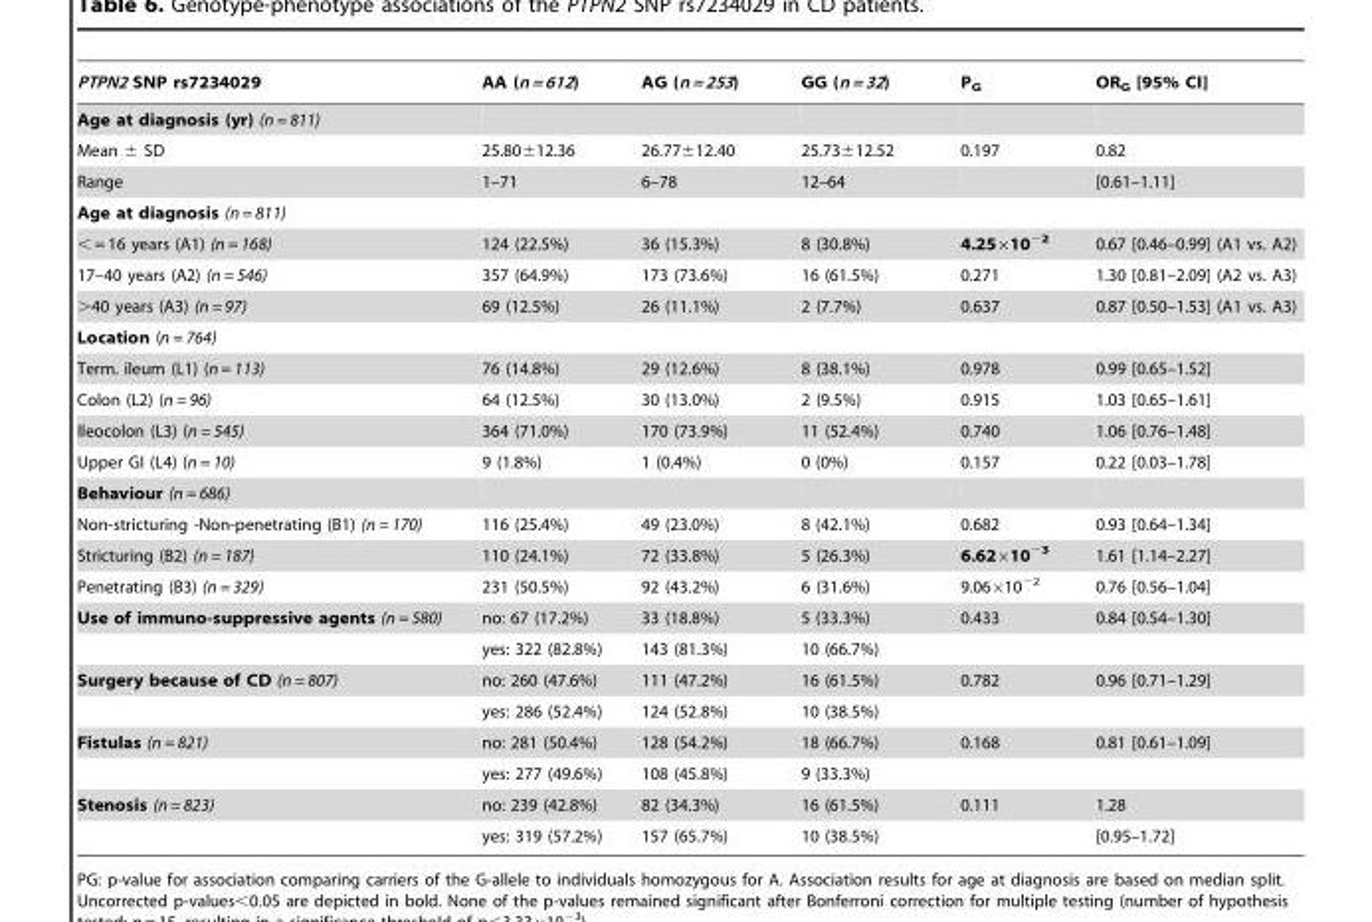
<table><thead><tr><td>PTPN2 SNP rs7234029</td><td>AA (n = 612)</td><td>AG (n = 253)</td><td>GG (n = 32)</td><td>P<sub>G</sub></td><td>OR<sub>G</sub> [95% CI]</td></tr></thead><tbody><tr><td colspan="6">Age at diagnosis (yr) (n = 811)</td></tr><tr><td>Mean ± SD</td><td>25.80±12.36</td><td>26.77±12.40</td><td>25.73±12.52</td><td>0.197</td><td>0.82</td></tr><tr><td>Range</td><td>1–71</td><td>6–78</td><td>12–64</td><td></td><td>[0.61–1.11]</td></tr><tr><td colspan="6">Age at diagnosis (n = 811)</td></tr><tr><td>&lt; = 16 years (A1) (n = 168)</td><td>124 (22.5%)</td><td>36 (15.3%)</td><td>8 (30.8%)</td><td>4.25×10<sup>−2</sup></td><td>0.67 [0.46–0.99] (A1 vs. A2)</td></tr><tr><td>17–40 years (A2) (n = 546)</td><td>357 (64.9%)</td><td>173 (73.6%)</td><td>16 (61.5%)</td><td>0.271</td><td>1.30 [0.81–2.09] (A2 vs. A3)</td></tr><tr><td>&gt;40 years (A3) (n = 97)</td><td>69 (12.5%)</td><td>26 (11.1%)</td><td>2 (7.7%)</td><td>0.637</td><td>0.87 [0.50–1.53] (A1 vs. A3)</td></tr><tr><td colspan="6">Location (n = 764)</td></tr><tr><td>Term. ileum (L1) (n = 113)</td><td>76 (14.8%)</td><td>29 (12.6%)</td><td>8 (38.1%)</td><td>0.978</td><td>0.99 [0.65–1.52]</td></tr><tr><td>Colon (L2) (n = 96)</td><td>64 (12.5%)</td><td>30 (13.0%)</td><td>2 (9.5%)</td><td>0.915</td><td>1.03 [0.65–1.61]</td></tr><tr><td>Ileocolon (L3) (n = 545)</td><td>364 (71.0%)</td><td>170 (73.9%)</td><td>11 (52.4%)</td><td>0.740</td><td>1.06 [0.76–1.48]</td></tr><tr><td>Upper GI (L4) (n = 10)</td><td>9 (1.8%)</td><td>1 (0.4%)</td><td>0 (0%)</td><td>0.157</td><td>0.22 [0.03–1.78]</td></tr><tr><td colspan="6">Behaviour (n = 686)</td></tr><tr><td>Non-stricturing -Non-penetrating (B1) (n = 170)</td><td>116 (25.4%)</td><td>49 (23.0%)</td><td>8 (42.1%)</td><td>0.682</td><td>0.93 [0.64–1.34]</td></tr><tr><td>Stricturing (B2) (n = 187)</td><td>110 (24.1%)</td><td>72 (33.8%)</td><td>5 (26.3%)</td><td>6.62×10<sup>−3</sup></td><td>1.61 [1.14–2.27]</td></tr><tr><td>Penetrating (B3) (n = 329)</td><td>231 (50.5%)</td><td>92 (43.2%)</td><td>6 (31.6%)</td><td>9.06×10<sup>−2</sup></td><td>0.76 [0.56–1.04]</td></tr><tr><td rowspan="2">Use of immuno-suppressive agents (n = 580)</td><td>no: 67 (17.2%)</td><td>33 (18.8%)</td><td>5 (33.3%)</td><td>0.433</td><td>0.84 [0.54–1.30]</td></tr><tr><td>yes: 322 (82.8%)</td><td>143 (81.3%)</td><td>10 (66.7%)</td><td></td><td></td></tr><tr><td rowspan="2">Surgery because of CD (n = 807)</td><td>no: 260 (47.6%)</td><td>111 (47.2%)</td><td>16 (61.5%)</td><td>0.782</td><td>0.96 [0.71–1.29]</td></tr><tr><td>yes: 286 (52.4%)</td><td>124 (52.8%)</td><td>10 (38.5%)</td><td></td><td></td></tr><tr><td rowspan="2">Fistulas (n = 821)</td><td>no: 281 (50.4%)</td><td>128 (54.2%)</td><td>18 (66.7%)</td><td>0.168</td><td>0.81 [0.61–1.09]</td></tr><tr><td>yes: 277 (49.6%)</td><td>108 (45.8%)</td><td>9 (33.3%)</td><td></td><td></td></tr><tr><td rowspan="2">Stenosis (n = 823)</td><td>no: 239 (42.8%)</td><td>82 (34.3%)</td><td>16 (61.5%)</td><td>0.111</td><td>1.28</td></tr><tr><td>yes: 319 (57.2%)</td><td>157 (65.7%)</td><td>10 (38.5%)</td><td></td><td>[0.95–1.72]</td></tr></tbody></table>